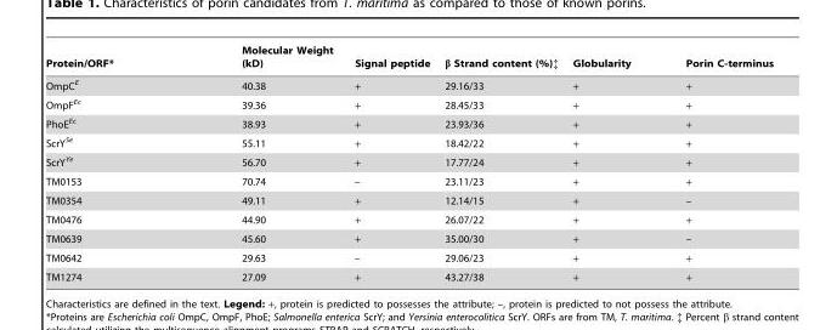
<table><thead><tr><td>Protein/ORF*</td><td>Molecular Weight (kD)</td><td>Signal peptide</td><td>β Strand content (%)‡</td><td>Globularity</td><td>Porin C-terminus</td></tr></thead><tbody><tr><td>OmpC<sup>E</sup></td><td>40.38</td><td>+</td><td>29.16/33</td><td>+</td><td>+</td></tr><tr><td>OmpF<sup>Ec</sup></td><td>39.36</td><td>+</td><td>28.45/33</td><td>+</td><td>+</td></tr><tr><td>PhoE<sup>Ec</sup></td><td>38.93</td><td>+</td><td>23.93/36</td><td>+</td><td>+</td></tr><tr><td>ScrY<sup>Se</sup></td><td>55.11</td><td>+</td><td>18.42/22</td><td>+</td><td>+</td></tr><tr><td>ScrY<sup>Ye</sup></td><td>56.70</td><td>+</td><td>17.77/24</td><td>+</td><td>+</td></tr><tr><td>TM0153</td><td>70.74</td><td>–</td><td>23.11/23</td><td>+</td><td>+</td></tr><tr><td>TM0354</td><td>49.11</td><td>+</td><td>12.14/15</td><td>+</td><td>–</td></tr><tr><td>TM0476</td><td>44.90</td><td>+</td><td>26.07/22</td><td>+</td><td>+</td></tr><tr><td>TM0639</td><td>45.60</td><td>+</td><td>35.00/30</td><td>+</td><td>–</td></tr><tr><td>TM0642</td><td>29.63</td><td>–</td><td>29.06/23</td><td>+</td><td>+</td></tr><tr><td>TM1274</td><td>27.09</td><td>+</td><td>43.27/38</td><td>+</td><td>+</td></tr></tbody></table>